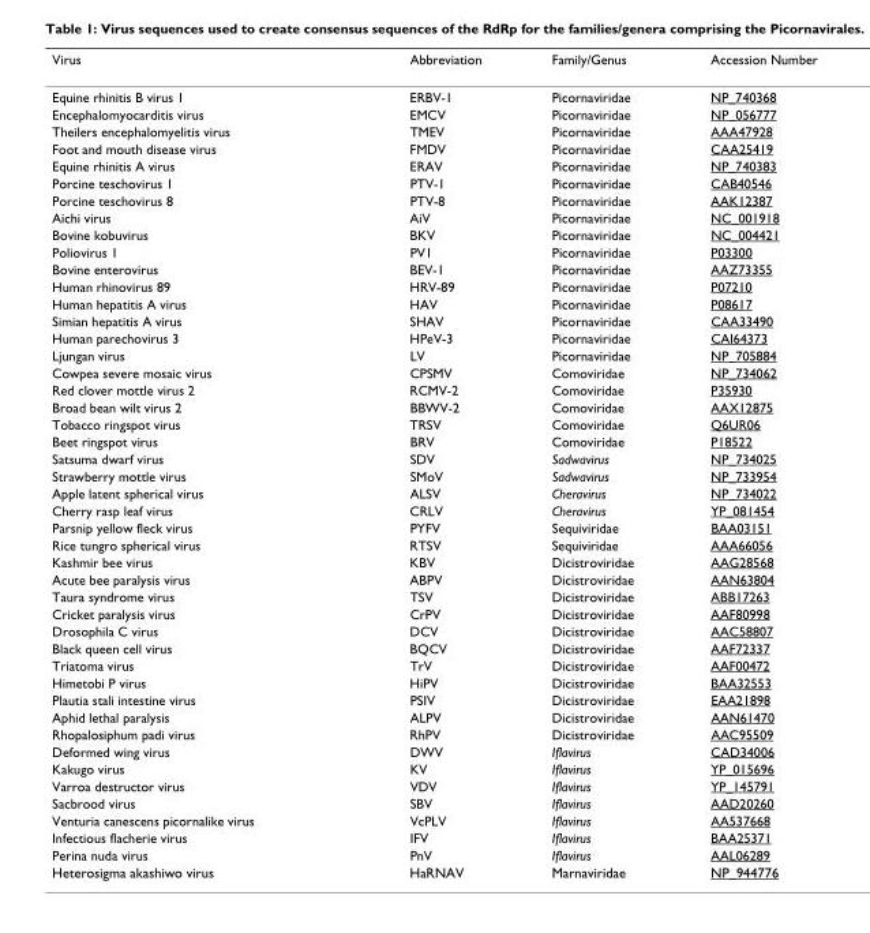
<table><thead><tr><td>Virus</td><td>Abbreviation</td><td>Family/Genus</td><td>Accession Number</td></tr></thead><tbody><tr><td>Equine rhinitis B virus 1</td><td>ERBV-1</td><td>Picornaviridae</td><td>NP_740368</td></tr><tr><td>Encephalomyocarditis virus</td><td>EMCV</td><td>Picornaviridae</td><td>NP_056777</td></tr><tr><td>Theilers encephalomyelitis virus</td><td>TMEV</td><td>Picornaviridae</td><td>AAA47928</td></tr><tr><td>Foot and mouth disease virus</td><td>FMDV</td><td>Picornaviridae</td><td>CAA25419</td></tr><tr><td>Equine rhinitis A virus</td><td>ERAV</td><td>Picornaviridae</td><td>NP_740383</td></tr><tr><td>Porcine teschovirus 1</td><td>PTV-1</td><td>Picornaviridae</td><td>CAB40546</td></tr><tr><td>Porcine teschovirus 8</td><td>PTV-8</td><td>Picornaviridae</td><td>AAK12387</td></tr><tr><td>Aichi virus</td><td>AiV</td><td>Picornaviridae</td><td>NC_001918</td></tr><tr><td>Bovine kobuvirus</td><td>BKV</td><td>Picornaviridae</td><td>NC_004421</td></tr><tr><td>Poliovirus 1</td><td>PV1</td><td>Picornaviridae</td><td>P03300</td></tr><tr><td>Bovine enterovirus</td><td>BEV-1</td><td>Picornaviridae</td><td>AAZ73355</td></tr><tr><td>Human rhinovirus 89</td><td>HRV-89</td><td>Picornaviridae</td><td>P07210</td></tr><tr><td>Human hepatitis A virus</td><td>HAV</td><td>Picornaviridae</td><td>P08617</td></tr><tr><td>Simian hepatitis A virus</td><td>SHAV</td><td>Picornaviridae</td><td>CAA33490</td></tr><tr><td>Human parechovirus 3</td><td>HPeV-3</td><td>Picornaviridae</td><td>CAI64373</td></tr><tr><td>Ljungan virus</td><td>LV</td><td>Picornaviridae</td><td>NP_705884</td></tr><tr><td>Cowpea severe mosaic virus</td><td>CPSMV</td><td>Comoviridae</td><td>NP_734062</td></tr><tr><td>Red clover mottle virus 2</td><td>RCMV-2</td><td>Comoviridae</td><td>P35930</td></tr><tr><td>Broad bean wilt virus 2</td><td>BBWV-2</td><td>Comoviridae</td><td>AAX12875</td></tr><tr><td>Tobacco ringspot virus</td><td>TRSV</td><td>Comoviridae</td><td>Q6UR06</td></tr><tr><td>Beet ringspot virus</td><td>BRV</td><td>Comoviridae</td><td>P18522</td></tr><tr><td>Satsuma dwarf virus</td><td>SDV</td><td>Sadwavirus</td><td>NP_734025</td></tr><tr><td>Strawberry mottle virus</td><td>SMoV</td><td>Sadwavirus</td><td>NP_733954</td></tr><tr><td>Apple latent spherical virus</td><td>ALSV</td><td>Cheravirus</td><td>NP_734022</td></tr><tr><td>Cherry rasp leaf virus</td><td>CRLV</td><td>Cheravirus</td><td>YP_081454</td></tr><tr><td>Parsnip yellow fleck virus</td><td>PYFV</td><td>Sequiviridae</td><td>BAA03151</td></tr><tr><td>Rice tungro spherical virus</td><td>RTSV</td><td>Sequiviridae</td><td>AAA66056</td></tr><tr><td>Kashmir bee virus</td><td>KBV</td><td>Dicistroviridae</td><td>AAG28568</td></tr><tr><td>Acute bee paralysis virus</td><td>ABPV</td><td>Dicistroviridae</td><td>AAN63804</td></tr><tr><td>Taura syndrome virus</td><td>TSV</td><td>Dicistroviridae</td><td>ABB17263</td></tr><tr><td>Cricket paralysis virus</td><td>CrPV</td><td>Dicistroviridae</td><td>AAF80998</td></tr><tr><td>Drosophila C virus</td><td>DCV</td><td>Dicistroviridae</td><td>AAC58807</td></tr><tr><td>Black queen cell virus</td><td>BQCV</td><td>Dicistroviridae</td><td>AAF72337</td></tr><tr><td>Triatoma virus</td><td>TrV</td><td>Dicistroviridae</td><td>AAF00472</td></tr><tr><td>Himetobi P virus</td><td>HiPV</td><td>Dicistroviridae</td><td>BAA32553</td></tr><tr><td>Plautia stali intestine virus</td><td>PSIV</td><td>Dicistroviridae</td><td>EAA21898</td></tr><tr><td>Aphid lethal paralysis</td><td>ALPV</td><td>Dicistroviridae</td><td>AAN61470</td></tr><tr><td>Rhopalosiphum padi virus</td><td>RhPV</td><td>Dicistroviridae</td><td>AAC95509</td></tr><tr><td>Deformed wing virus</td><td>DWV</td><td>Iflavirus</td><td>CAD34006</td></tr><tr><td>Kakugo virus</td><td>KV</td><td>Iflavirus</td><td>YP_015696</td></tr><tr><td>Varroa destructor virus</td><td>VDV</td><td>Iflavirus</td><td>YP_145791</td></tr><tr><td>Sacbrood virus</td><td>SBV</td><td>Iflavirus</td><td>AAD20260</td></tr><tr><td>Venturia canescens picornalike virus</td><td>VcPLV</td><td>Iflavirus</td><td>AA537668</td></tr><tr><td>Infectious flacherie virus</td><td>IFV</td><td>Iflavirus</td><td>BAA25371</td></tr><tr><td>Perina nuda virus</td><td>PnV</td><td>Iflavirus</td><td>AAL06289</td></tr><tr><td>Heterosigma akashiwo virus</td><td>HaRNAV</td><td>Marnaviridae</td><td>NP_944776</td></tr></tbody></table>